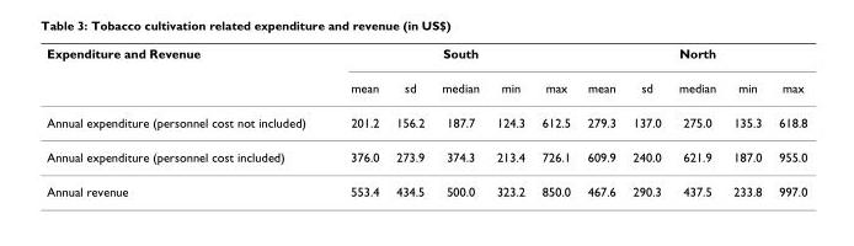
<table><thead><tr><td rowspan="2">Expenditure and Revenue</td><td colspan="5">South</td><td colspan="5">North</td></tr><tr><td>mean</td><td>sd</td><td>median</td><td>min</td><td>max</td><td>mean</td><td>sd</td><td>median</td><td>min</td><td>max</td></tr></thead><tbody><tr><td>Annual expenditure (personnel cost not included)</td><td>201.2</td><td>156.2</td><td>187.7</td><td>124.3</td><td>612.5</td><td>279.3</td><td>137.0</td><td>275.0</td><td>135.3</td><td>618.8</td></tr><tr><td>Annual expenditure (personnel cost included)</td><td>376.0</td><td>273.9</td><td>374.3</td><td>213.4</td><td>726.1</td><td>609.9</td><td>240.0</td><td>621.9</td><td>187.0</td><td>955.0</td></tr><tr><td>Annual revenue</td><td>553.4</td><td>434.5</td><td>500.0</td><td>323.2</td><td>850.0</td><td>467.6</td><td>290.3</td><td>437.5</td><td>233.8</td><td>997.0</td></tr></tbody></table>